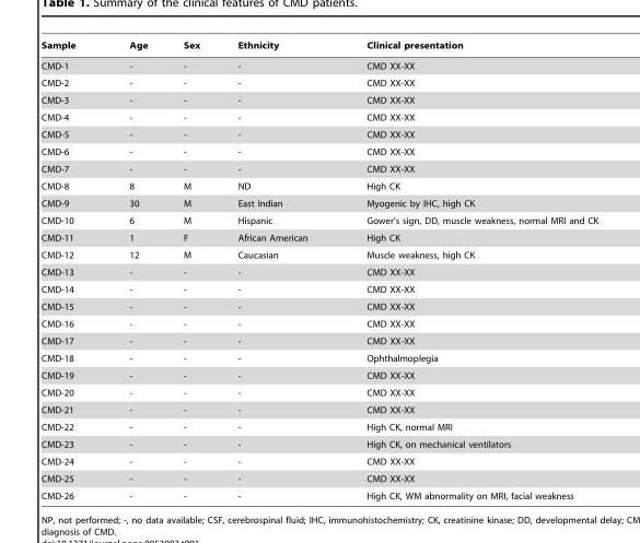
<table><thead><tr><td>Sample</td><td>Age</td><td>Sex</td><td>Ethnicity</td><td>Clinical presentation</td></tr></thead><tbody><tr><td>CMD-1</td><td>-</td><td>-</td><td>-</td><td>CMD XX-XX</td></tr><tr><td>CMD-2</td><td>-</td><td>-</td><td>-</td><td>CMD XX-XX</td></tr><tr><td>CMD-3</td><td>-</td><td>-</td><td>-</td><td>CMD XX-XX</td></tr><tr><td>CMD-4</td><td>-</td><td>-</td><td>-</td><td>CMD XX-XX</td></tr><tr><td>CMD-5</td><td>-</td><td>-</td><td>-</td><td>CMD XX-XX</td></tr><tr><td>CMD-6</td><td>-</td><td>-</td><td>-</td><td>CMD XX-XX</td></tr><tr><td>CMD-7</td><td>-</td><td>-</td><td>-</td><td>CMD XX-XX</td></tr><tr><td>CMD-8</td><td>8</td><td>M</td><td>ND</td><td>High CK</td></tr><tr><td>CMD-9</td><td>30</td><td>M</td><td>East Indian</td><td>Myogenic by IHC, high CK</td></tr><tr><td>CMD-10</td><td>6</td><td>M</td><td>Hispanic</td><td>Gower’s sign, DD, muscle weakness, normal MRI and CK</td></tr><tr><td>CMD-11</td><td>1</td><td>F</td><td>African American</td><td>High CK</td></tr><tr><td>CMD-12</td><td>12</td><td>M</td><td>Caucasian</td><td>Muscle weakness, high CK</td></tr><tr><td>CMD-13</td><td>-</td><td>-</td><td>-</td><td>CMD XX-XX</td></tr><tr><td>CMD-14</td><td>-</td><td>-</td><td>-</td><td>CMD XX-XX</td></tr><tr><td>CMD-15</td><td>-</td><td>-</td><td>-</td><td>CMD XX-XX</td></tr><tr><td>CMD-16</td><td>-</td><td>-</td><td>-</td><td>CMD XX-XX</td></tr><tr><td>CMD-17</td><td>-</td><td>-</td><td>-</td><td>CMD XX-XX</td></tr><tr><td>CMD-18</td><td>-</td><td>-</td><td>-</td><td>Ophthalmoplegia</td></tr><tr><td>CMD-19</td><td>-</td><td>-</td><td>-</td><td>CMD XX-XX</td></tr><tr><td>CMD-20</td><td>-</td><td>-</td><td>-</td><td>CMD XX-XX</td></tr><tr><td>CMD-21</td><td>-</td><td>-</td><td>-</td><td>CMD XX-XX</td></tr><tr><td>CMD-22</td><td>-</td><td>-</td><td>-</td><td>High CK, normal MRI</td></tr><tr><td>CMD-23</td><td>-</td><td>-</td><td>-</td><td>High CK, on mechanical ventilators</td></tr><tr><td>CMD-24</td><td>-</td><td>-</td><td>-</td><td>CMD XX-XX</td></tr><tr><td>CMD-25</td><td>-</td><td>-</td><td>-</td><td>CMD XX-XX</td></tr><tr><td>CMD-26</td><td>-</td><td>-</td><td>-</td><td>High CK, WM abnormality on MRI, facial weakness</td></tr></tbody></table>